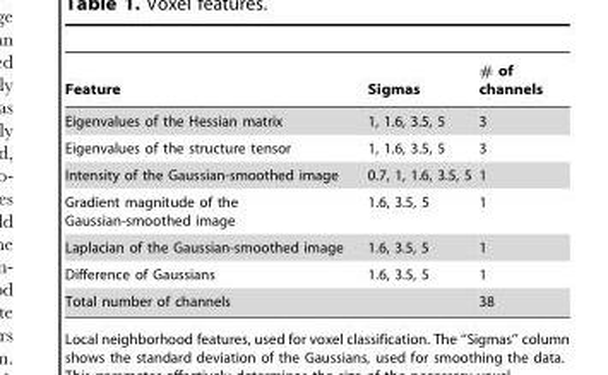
<table><thead><tr><td>Feature</td><td>Sigmas</td><td># of channels</td></tr></thead><tbody><tr><td>Eigenvalues of the Hessian matrix</td><td>1, 1.6, 3.5, 5</td><td>3</td></tr><tr><td>Eigenvalues of the structure tensor</td><td>1, 1.6, 3.5, 5</td><td>3</td></tr><tr><td>Intensity of the Gaussian-smoothed image</td><td>0.7, 1, 1.6, 3.5, 5</td><td>1</td></tr><tr><td>Gradient magnitude of the Gaussian-smoothed image</td><td>1.6, 3.5, 5</td><td>1</td></tr><tr><td>Laplacian of the Gaussian-smoothed image</td><td>1.6, 3.5, 5</td><td>1</td></tr><tr><td>Difference of Gaussians</td><td>1.6, 3.5, 5</td><td>1</td></tr><tr><td colspan="2">Total number of channels</td><td>38</td></tr></tbody></table>